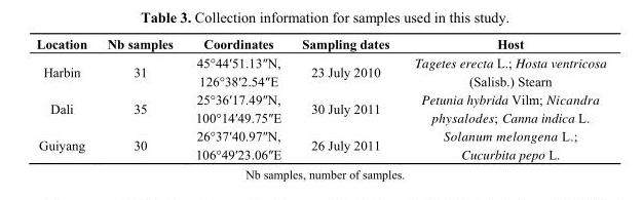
<table><thead><tr><td>Location</td><td>Nb samples</td><td>Coordinates</td><td>Sampling dates</td><td>Host</td></tr></thead><tbody><tr><td>Harbin</td><td>31</td><td>45°44′51.13″N, 126°38′2.54″E</td><td>23 July 2010</td><td>Tagetes erecta L.; Hosta ventricosa (Salisb.) Stearn</td></tr><tr><td>Dali</td><td>35</td><td>25°36′17.49″N, 100°14′49.75″E</td><td>30 July 2011</td><td>Petunia hybrida Vilm; Nicandra physalodes; Canna indica L.</td></tr><tr><td>Guiyang</td><td>30</td><td>26°37′40.97″N, 106°49′23.06″E</td><td>26 July 2011</td><td>Solanum melongena L.; Cucurbita pepo L.</td></tr></tbody></table>